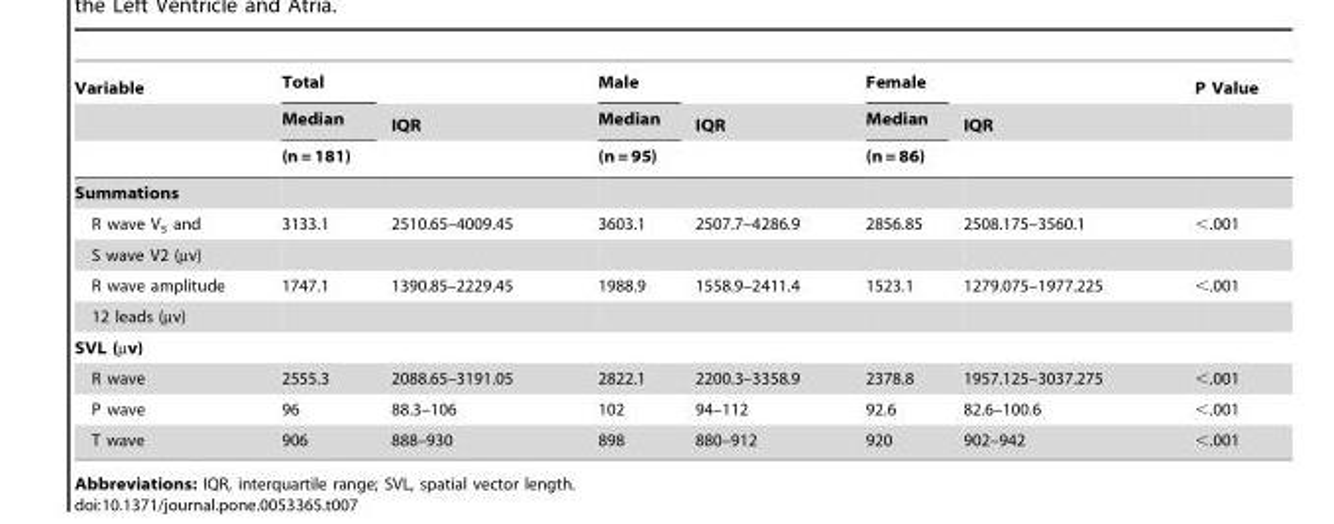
<table><thead><tr><td rowspan="3">Variable</td><td rowspan="3">Total Median (n = 181)</td><td rowspan="3">IQR</td><td rowspan="3">Male Median (n = 95)</td><td rowspan="3">IQR</td><td rowspan="3">Female Median (n = 86)</td><td rowspan="3">IQR</td><td rowspan="3">P Value</td></tr><tr></tr><tr></tr></thead><tbody><tr><td colspan="8">Summations</td></tr><tr><td>R wave V<sub>5</sub> and</td><td>3133.1</td><td>2510.65–4009.45</td><td>3603.1</td><td>2507.7–4286.9</td><td>2856.85</td><td>2508.175–3560.1</td><td>&lt;.001</td></tr><tr><td colspan="8">S wave V2 (µv)</td></tr><tr><td>R wave amplitude</td><td>1747.1</td><td>1390.85–2229.45</td><td>1988.9</td><td>1558.9–2411.4</td><td>1523.1</td><td>1279.075–1977.225</td><td>&lt;.001</td></tr><tr><td colspan="8">12 leads (µv)</td></tr><tr><td colspan="8">SVL (µv)</td></tr><tr><td>R wave</td><td>2555.3</td><td>2088.65–3191.05</td><td>2822.1</td><td>2200.3–3358.9</td><td>2378.8</td><td>1957.125–3037.275</td><td>&lt;.001</td></tr><tr><td>P wave</td><td>96</td><td>88.3–106</td><td>102</td><td>94–112</td><td>92.6</td><td>82.6–100.6</td><td>&lt;.001</td></tr><tr><td>T wave</td><td>906</td><td>888–930</td><td>898</td><td>880–912</td><td>920</td><td>902–942</td><td>&lt;.001</td></tr></tbody></table>